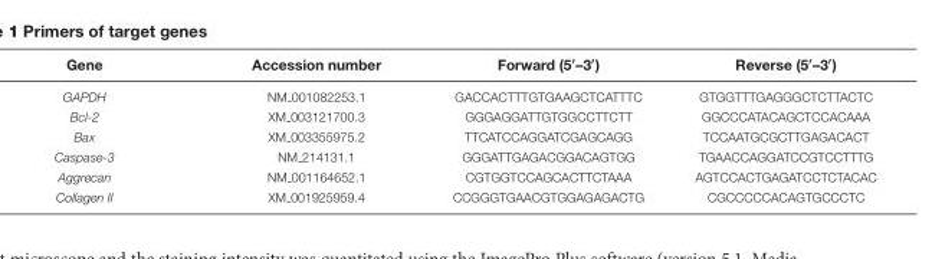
<table><thead><tr><td>Gene</td><td>Accession number</td><td>Forward (5′–3′)</td><td>Reverse (5′–3′)</td></tr></thead><tbody><tr><td>GAPDH</td><td>NM 001082253.1</td><td>GACCACTTTGTGAAGCTCATTTC</td><td>GTGGTTTGAGGGCTCTTACTC</td></tr><tr><td>Bcl-2</td><td>XM 003121700.3</td><td>GGGAGGATTGTGGCCTTCTT</td><td>GGCCCATACAGCTCCACAAA</td></tr><tr><td>Bax</td><td>XM 003355975.2</td><td>TTCATCCAGGATCGAGCAGG</td><td>TCCAATGCGCTTGAGACACT</td></tr><tr><td>Caspase-3</td><td>NM 214131.1</td><td>GGGATTGAGACGGACAGTGG</td><td>TGAACCAGGATCCGTCCTTTG</td></tr><tr><td>Aggrecan</td><td>NM 001164652.1</td><td>CGTGGTCCAGCACTTCTAAA</td><td>AGTCCACTGAGATCCTCTACAC</td></tr><tr><td>Collagen II</td><td>XM 001925959.4</td><td>CCGGGTGAACGTGGAGAGACTG</td><td>CGCCCCCACAGTGCCCTC</td></tr></tbody></table>